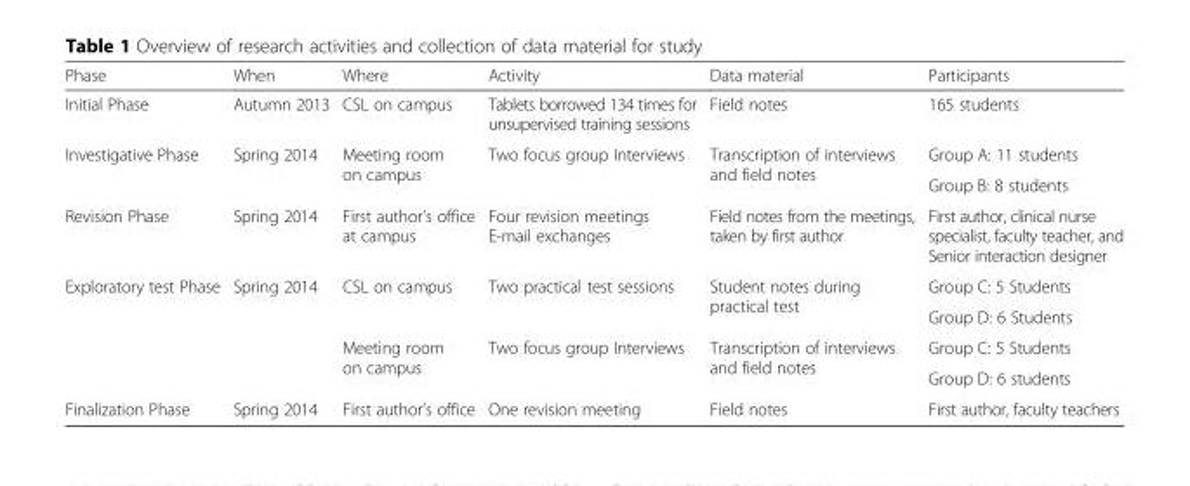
<table><thead><tr><td>Phase</td><td>When</td><td>Where</td><td>Activity</td><td>Data material</td><td>Participants</td></tr></thead><tbody><tr><td>Initial Phase</td><td>Autumn 2013</td><td>CSL on campus</td><td>Tablets borrowed 134 times for unsupervised training sessions</td><td>Field notes</td><td>165 students</td></tr><tr><td rowspan="2">Investigative Phase</td><td rowspan="2">Spring 2014</td><td rowspan="2">Meeting room on campus</td><td rowspan="2">Two focus group Interviews</td><td rowspan="2">Transcription of interviews and field notes</td><td>Group A: 11 students</td></tr><tr><td>Group B: 8 students</td></tr><tr><td>Revision Phase</td><td>Spring 2014</td><td>First author’s office at campus</td><td>Four revision meetings E-mail exchanges</td><td>Field notes from the meetings, taken by first author</td><td>First author, clinical nurse specialist, faculty teacher, and Senior interaction designer</td></tr><tr><td rowspan="4">Exploratory test Phase</td><td rowspan="4">Spring 2014</td><td rowspan="2">CSL on campus</td><td rowspan="2">Two practical test sessions</td><td rowspan="2">Student notes during practical test</td><td>Group C: 5 Students</td></tr><tr><td>Group D: 6 Students</td></tr><tr><td rowspan="2">Meeting room on campus</td><td rowspan="2">Two focus group Interviews</td><td rowspan="2">Transcription of interviews and field notes</td><td>Group C: 5 Students</td></tr><tr><td>Group D: 6 students</td></tr><tr><td>Finalization Phase</td><td>Spring 2014</td><td>First author’s office</td><td>One revision meeting</td><td>Field notes</td><td>First author, faculty teachers</td></tr></tbody></table>